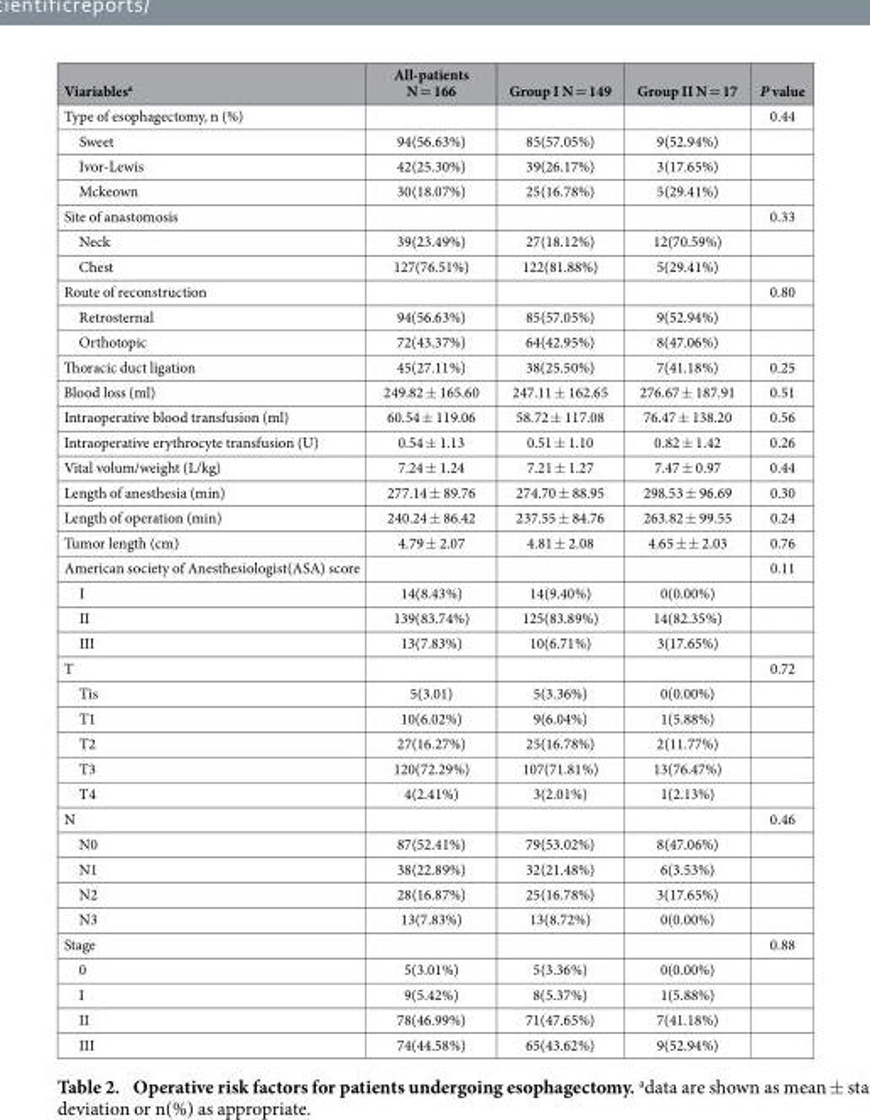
<table><thead><tr><td>Viariables<sup>a</sup></td><td>All-patients N = 166</td><td>Group I N = 149</td><td>Group II N = 17</td><td>P value</td></tr></thead><tbody><tr><td>Type of esophagectomy, n (%)</td><td></td><td></td><td></td><td>0.44</td></tr><tr><td>Sweet</td><td>94(56.63%)</td><td>85(57.05%)</td><td>9(52.94%)</td><td></td></tr><tr><td>Ivor-Lewis</td><td>42(25.30%)</td><td>39(26.17%)</td><td>3(17.65%)</td><td></td></tr><tr><td>Mckeown</td><td>30(18.07%)</td><td>25(16.78%)</td><td>5(29.41%)</td><td></td></tr><tr><td>Site of anastomosis</td><td></td><td></td><td></td><td>0.33</td></tr><tr><td>Neck</td><td>39(23.49%)</td><td>27(18.12%)</td><td>12(70.59%)</td><td></td></tr><tr><td>Chest</td><td>127(76.51%)</td><td>122(81.88%)</td><td>5(29.41%)</td><td></td></tr><tr><td>Route of reconstruction</td><td></td><td></td><td></td><td>0.80</td></tr><tr><td>Retrosternal</td><td>94(56.63%)</td><td>85(57.05%)</td><td>9(52.94%)</td><td></td></tr><tr><td>Orthotopic</td><td>72(43.37%)</td><td>64(42.95%)</td><td>8(47.06%)</td><td></td></tr><tr><td>Thoracic duct ligation</td><td>45(27.11%)</td><td>38(25.50%)</td><td>7(41.18%)</td><td>0.25</td></tr><tr><td>Blood loss (ml)</td><td>249.82 ± 165.60</td><td>247.11 ± 162.65</td><td>276.67 ± 187.91</td><td>0.51</td></tr><tr><td>Intraoperative blood transfusion (ml)</td><td>60.54 ± 119.06</td><td>58.72 ± 117.08</td><td>76.47 ± 138.20</td><td>0.56</td></tr><tr><td>Intraoperative erythrocyte transfusion (U)</td><td>0.54 ± 1.13</td><td>0.51 ± 1.10</td><td>0.82 ± 1.42</td><td>0.26</td></tr><tr><td>Vital volum/weight (L/kg)</td><td>7.24 ± 1.24</td><td>7.21 ± 1.27</td><td>7.47 ± 0.97</td><td>0.44</td></tr><tr><td>Length of anesthesia (min)</td><td>277.14 ± 89.76</td><td>274.70 ± 88.95</td><td>298.53 ± 96.69</td><td>0.30</td></tr><tr><td>Length of operation (min)</td><td>240.24 ± 86.42</td><td>237.55 ± 84.76</td><td>263.82 ± 99.55</td><td>0.24</td></tr><tr><td>Tumor length (cm)</td><td>4.79 ± 2.07</td><td>4.81 ± 2.08</td><td>4.65 ± ± 2.03</td><td>0.76</td></tr><tr><td>American society of Anesthesiologist(ASA) score</td><td></td><td></td><td></td><td>0.11</td></tr><tr><td>I</td><td>14(8.43%)</td><td>14(9.40%)</td><td>0(0.00%)</td><td></td></tr><tr><td>II</td><td>139(83.74%)</td><td>125(83.89%)</td><td>14(82.35%)</td><td></td></tr><tr><td>III</td><td>13(7.83%)</td><td>10(6.71%)</td><td>3(17.65%)</td><td></td></tr><tr><td>T</td><td></td><td></td><td></td><td>0.72</td></tr><tr><td>Tis</td><td>5(3.01)</td><td>5(3.36%)</td><td>0(0.00%)</td><td></td></tr><tr><td>T1</td><td>10(6.02%)</td><td>9(6.04%)</td><td>1(5.88%)</td><td></td></tr><tr><td>T2</td><td>27(16.27%)</td><td>25(16.78%)</td><td>2(11.77%)</td><td></td></tr><tr><td>T3</td><td>120(72.29%)</td><td>107(71.81%)</td><td>13(76.47%)</td><td></td></tr><tr><td>T4</td><td>4(2.41%)</td><td>3(2.01%)</td><td>1(2.13%)</td><td></td></tr><tr><td>N</td><td></td><td></td><td></td><td>0.46</td></tr><tr><td>N0</td><td>87(52.41%)</td><td>79(53.02%)</td><td>8(47.06%)</td><td></td></tr><tr><td>N1</td><td>38(22.89%)</td><td>32(21.48%)</td><td>6(3.53%)</td><td></td></tr><tr><td>N2</td><td>28(16.87%)</td><td>25(16.78%)</td><td>3(17.65%)</td><td></td></tr><tr><td>N3</td><td>13(7.83%)</td><td>13(8.72%)</td><td>0(0.00%)</td><td></td></tr><tr><td>Stage</td><td></td><td></td><td></td><td>0.88</td></tr><tr><td>0</td><td>5(3.01%)</td><td>5(3.36%)</td><td>0(0.00%)</td><td></td></tr><tr><td>I</td><td>9(5.42%)</td><td>8(5.37%)</td><td>1(5.88%)</td><td></td></tr><tr><td>II</td><td>78(46.99%)</td><td>71(47.65%)</td><td>7(41.18%)</td><td></td></tr><tr><td>III</td><td>74(44.58%)</td><td>65(43.62%)</td><td>9(52.94%)</td><td></td></tr></tbody></table>